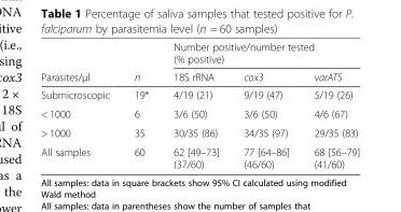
<table><thead><tr><td rowspan="2">Parasites/μl</td><td rowspan="2">n</td><td colspan="3">Number positive/number tested (% positive)</td></tr><tr><td>18S rRNA</td><td>cox3</td><td>varATS</td></tr></thead><tbody><tr><td>Submicroscopic</td><td>19*</td><td>4/19 (21)</td><td>9/19 (47)</td><td>5/19 (26)</td></tr><tr><td>&lt; 1000</td><td>6</td><td>3/6 (50)</td><td>3/6 (50)</td><td>4/6 (67)</td></tr><tr><td>&gt; 1000</td><td>35</td><td>30/35 (86)</td><td>34/35 (97)</td><td>29/35 (83)</td></tr><tr><td>All samples</td><td>60</td><td>62 [49–73] (37/60)</td><td>77 [64–86] (46/60)</td><td>68 [56–79] (41/60)</td></tr></tbody></table>